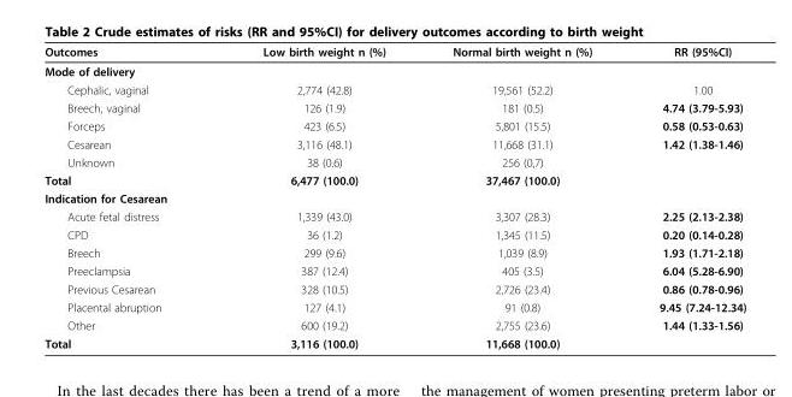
<table><thead><tr><td>Outcomes</td><td>Low birth weight n (%)</td><td>Normal birth weight n (%)</td><td>RR (95%CI)</td></tr></thead><tbody><tr><td colspan="4">Mode of delivery</td></tr><tr><td>Cephalic, vaginal</td><td>2,774 (42.8)</td><td>19,561 (52.2)</td><td>1.00</td></tr><tr><td>Breech, vaginal</td><td>126 (1.9)</td><td>181 (0.5)</td><td>4.74 (3.79-5.93)</td></tr><tr><td>Forceps</td><td>423 (6.5)</td><td>5,801 (15.5)</td><td>0.58 (0.53-0.63)</td></tr><tr><td>Cesarean</td><td>3,116 (48.1)</td><td>11,668 (31.1)</td><td>1.42 (1.38-1.46)</td></tr><tr><td>Unknown</td><td>38 (0.6)</td><td>256 (0,7)</td><td></td></tr><tr><td>Total</td><td>6,477 (100.0)</td><td>37,467 (100.0)</td><td></td></tr><tr><td colspan="4">Indication for Cesarean</td></tr><tr><td>Acute fetal distress</td><td>1,339 (43.0)</td><td>3,307 (28.3)</td><td>2.25 (2.13-2.38)</td></tr><tr><td>CPD</td><td>36 (1.2)</td><td>1,345 (11.5)</td><td>0.20 (0.14-0.28)</td></tr><tr><td>Breech</td><td>299 (9.6)</td><td>1,039 (8.9)</td><td>1.93 (1.71-2.18)</td></tr><tr><td>Preeclampsia</td><td>387 (12.4)</td><td>405 (3.5)</td><td>6.04 (5.28-6.90)</td></tr><tr><td>Previous Cesarean</td><td>328 (10.5)</td><td>2,726 (23.4)</td><td>0.86 (0.78-0.96)</td></tr><tr><td>Placental abruption</td><td>127 (4.1)</td><td>91 (0.8)</td><td>9.45 (7.24-12.34)</td></tr><tr><td>Other</td><td>600 (19.2)</td><td>2,755 (23.6)</td><td>1.44 (1.33-1.56)</td></tr><tr><td>Total</td><td>3,116 (100.0)</td><td>11,668 (100.0)</td><td></td></tr></tbody></table>